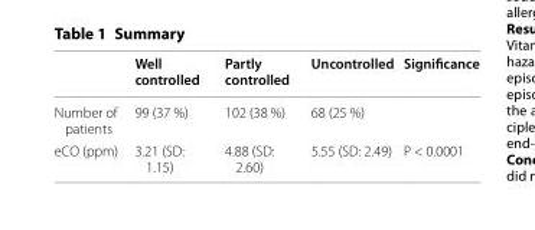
<table><thead><tr><td></td><td>Well controlled</td><td>Partly controlled</td><td>Uncontrolled</td><td>Significance</td></tr></thead><tbody><tr><td>Number of patients</td><td>99 (37 %)</td><td>102 (38 %)</td><td>68 (25 %)</td><td></td></tr><tr><td>eCO (ppm)</td><td>3.21 (SD: 1.15)</td><td>4.88 (SD: 2.60)</td><td>5.55 (SD: 2.49)</td><td>P &lt; 0.0001</td></tr></tbody></table>